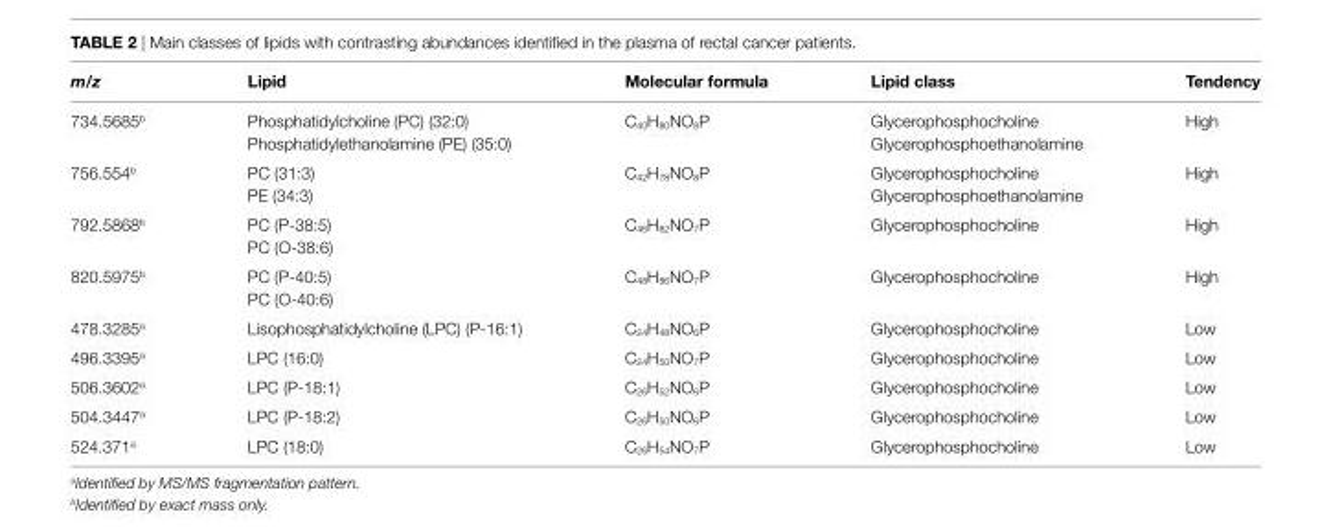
<table><thead><tr><td>m/z</td><td>lipid</td><td>Molecular formula</td><td>lipid class</td><td>Tendency</td></tr></thead><tbody><tr><td rowspan="2">734.5685<sup>b</sup></td><td>Phosphatidylcholine (PC) (32:0)</td><td rowspan="2">C<sub>40</sub>H<sub>80</sub>NO<sub>8</sub>P</td><td>Glycerophosphocholine</td><td rowspan="2">High</td></tr><tr><td>Phosphatidylethanolamine (PE) (35:0)</td><td>Glycerophosphoethanolamine</td></tr><tr><td rowspan="2">756.554<sup>b</sup></td><td>PC (31:3)</td><td rowspan="2">C<sub>42</sub>H<sub>78</sub>NO<sub>8</sub>P</td><td>Glycerophosphocholine</td><td rowspan="2">High</td></tr><tr><td>PE (34:3)</td><td>Glycerophosphoethanolamine</td></tr><tr><td rowspan="2">792.5868<sup>b</sup></td><td>PC (P-38:5)</td><td rowspan="2">C<sub>46</sub>H<sub>82</sub>NO<sub>7</sub>P</td><td rowspan="2">Glycerophosphocholine</td><td rowspan="2">High</td></tr><tr><td>PC (O-38:6)</td></tr><tr><td rowspan="2">820.5975<sup>b</sup></td><td>PC (P-40:5)</td><td rowspan="2">C<sub>48</sub>H<sub>86</sub>NO<sub>7</sub>P</td><td rowspan="2">Glycerophosphocholine</td><td rowspan="2">High</td></tr><tr><td>PC (O-40:6)</td></tr><tr><td>478.3285<sup>a</sup></td><td>Lisophosphatidylcholine (LPC) (P-16:1)</td><td>C<sub>24</sub>H<sub>48</sub>NO<sub>6</sub>P</td><td>Glycerophosphocholine</td><td>Low</td></tr><tr><td>496.3395<sup>a</sup></td><td>LPC (16:0)</td><td>C<sub>24</sub>H<sub>50</sub>NO<sub>7</sub>P</td><td>Glycerophosphocholine</td><td>Low</td></tr><tr><td>506.3602<sup>a</sup></td><td>LPC (P-18:1)</td><td>C<sub>26</sub>H<sub>52</sub>NO<sub>6</sub>P</td><td>Glycerophosphocholine</td><td>Low</td></tr><tr><td>504.3447<sup>a</sup></td><td>LPC (P-18:2)</td><td>C<sub>26</sub>H<sub>50</sub>NO<sub>6</sub>P</td><td>Glycerophosphocholine</td><td>Low</td></tr><tr><td>524.371<sup>a</sup></td><td>LPC (18:0)</td><td>C<sub>26</sub>H<sub>54</sub>NO<sub>7</sub>P</td><td>Glycerophosphocholine</td><td>Low</td></tr></tbody></table>